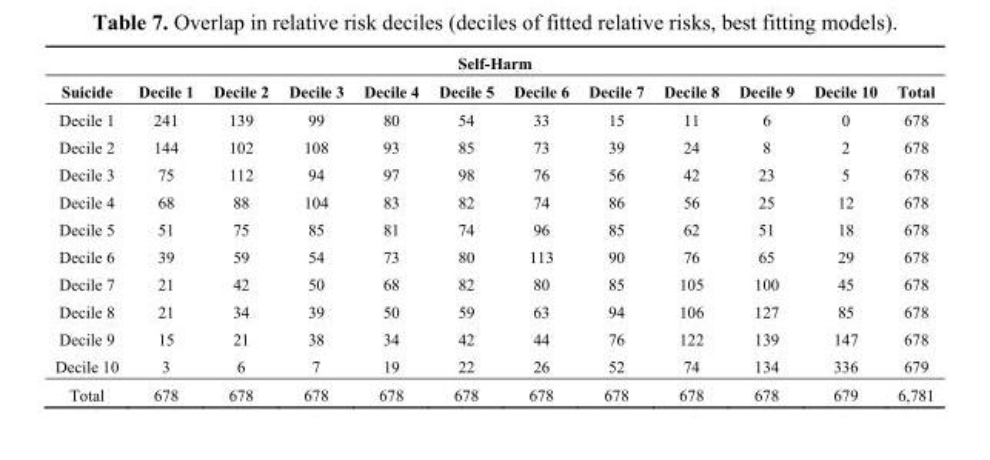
<table><thead><tr><td colspan="12">Self-Harm</td></tr><tr><td>Suicide</td><td>Decile 1</td><td>Decile 2</td><td>Decile 3</td><td>Decile 4</td><td>Decile 5</td><td>Decile 6</td><td>Decile 7</td><td>Decile 8</td><td>Decile 9</td><td>Decile 10</td><td>Total</td></tr></thead><tbody><tr><td>Decile 1</td><td>241</td><td>139</td><td>99</td><td>80</td><td>54</td><td>33</td><td>15</td><td>11</td><td>6</td><td>0</td><td>678</td></tr><tr><td>Decile 2</td><td>144</td><td>102</td><td>108</td><td>93</td><td>85</td><td>73</td><td>39</td><td>24</td><td>8</td><td>2</td><td>678</td></tr><tr><td>Decile 3</td><td>75</td><td>112</td><td>94</td><td>97</td><td>98</td><td>76</td><td>56</td><td>42</td><td>23</td><td>5</td><td>678</td></tr><tr><td>Decile 4</td><td>68</td><td>88</td><td>104</td><td>83</td><td>82</td><td>74</td><td>86</td><td>56</td><td>25</td><td>12</td><td>678</td></tr><tr><td>Decile 5</td><td>51</td><td>75</td><td>85</td><td>81</td><td>74</td><td>96</td><td>85</td><td>62</td><td>51</td><td>18</td><td>678</td></tr><tr><td>Decile 6</td><td>39</td><td>59</td><td>54</td><td>73</td><td>80</td><td>113</td><td>90</td><td>76</td><td>65</td><td>29</td><td>678</td></tr><tr><td>Decile 7</td><td>21</td><td>42</td><td>50</td><td>68</td><td>82</td><td>80</td><td>85</td><td>105</td><td>100</td><td>45</td><td>678</td></tr><tr><td>Decile 8</td><td>21</td><td>34</td><td>39</td><td>50</td><td>59</td><td>63</td><td>94</td><td>106</td><td>127</td><td>85</td><td>678</td></tr><tr><td>Decile 9</td><td>15</td><td>21</td><td>38</td><td>34</td><td>42</td><td>44</td><td>76</td><td>122</td><td>139</td><td>147</td><td>678</td></tr><tr><td>Decile 10</td><td>3</td><td>6</td><td>7</td><td>19</td><td>22</td><td>26</td><td>52</td><td>74</td><td>134</td><td>336</td><td>679</td></tr><tr><td>Total</td><td>678</td><td>678</td><td>678</td><td>678</td><td>678</td><td>678</td><td>678</td><td>678</td><td>678</td><td>679</td><td>6,781</td></tr></tbody></table>